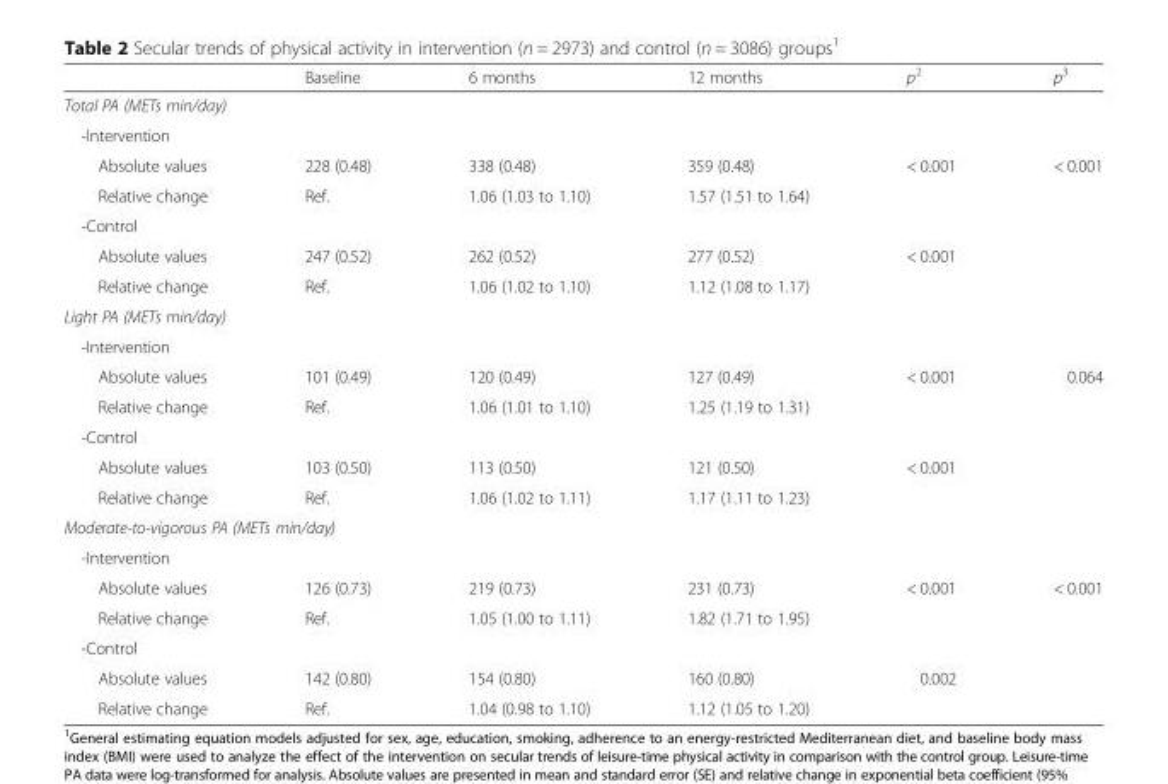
<table><thead><tr><td></td><td>Baseline</td><td>6 months</td><td>12 months</td><td>p<sup>2</sup></td><td>p<sup>3</sup></td></tr></thead><tbody><tr><td colspan="6">Total PA (METs min/day)</td></tr><tr><td colspan="6">-Intervention</td></tr><tr><td>Absolute values</td><td>228 (0.48)</td><td>338 (0.48)</td><td>359 (0.48)</td><td>&lt; 0.001</td><td>&lt; 0.001</td></tr><tr><td>Relative change</td><td>Ref.</td><td>1.06 (1.03 to 1.10)</td><td>1.57 (1.51 to 1.64)</td><td></td><td></td></tr><tr><td colspan="6">-Control</td></tr><tr><td>Absolute values</td><td>247 (0.52)</td><td>262 (0.52)</td><td>277 (0.52)</td><td>&lt; 0.001</td><td></td></tr><tr><td>Relative change</td><td>Ref.</td><td>1.06 (1.02 to 1.10)</td><td>1.12 (1.08 to 1.17)</td><td></td><td></td></tr><tr><td colspan="6">Light PA (METs min/day)</td></tr><tr><td colspan="6">-Intervention</td></tr><tr><td>Absolute values</td><td>101 (0.49)</td><td>120 (0.49)</td><td>127 (0.49)</td><td>&lt; 0.001</td><td>0.064</td></tr><tr><td>Relative change</td><td>Ref.</td><td>1.06 (1.01 to 1.10)</td><td>1.25 (1.19 to 1.31)</td><td></td><td></td></tr><tr><td colspan="6">-Control</td></tr><tr><td>Absolute values</td><td>103 (0.50)</td><td>113 (0.50)</td><td>121 (0.50)</td><td>&lt; 0.001</td><td></td></tr><tr><td>Relative change</td><td>Ref.</td><td>1.06 (1.02 to 1.11)</td><td>1.17 (1.11 to 1.23)</td><td></td><td></td></tr><tr><td colspan="6">Moderate-to-vigorous PA (METs min/day)</td></tr><tr><td colspan="6">-Intervention</td></tr><tr><td>Absolute values</td><td>126 (0.73)</td><td>219 (0.73)</td><td>231 (0.73)</td><td>&lt; 0.001</td><td>&lt; 0.001</td></tr><tr><td>Relative change</td><td>Ref.</td><td>1.05 (1.00 to 1.11)</td><td>1.82 (1.71 to 1.95)</td><td></td><td></td></tr><tr><td colspan="6">-Control</td></tr><tr><td>Absolute values</td><td>142 (0.80)</td><td>154 (0.80)</td><td>160 (0.80)</td><td>0.002</td><td></td></tr><tr><td>Relative change</td><td>Ref.</td><td>1.04 (0.98 to 1.10)</td><td>1.12 (1.05 to 1.20)</td><td></td><td></td></tr></tbody></table>